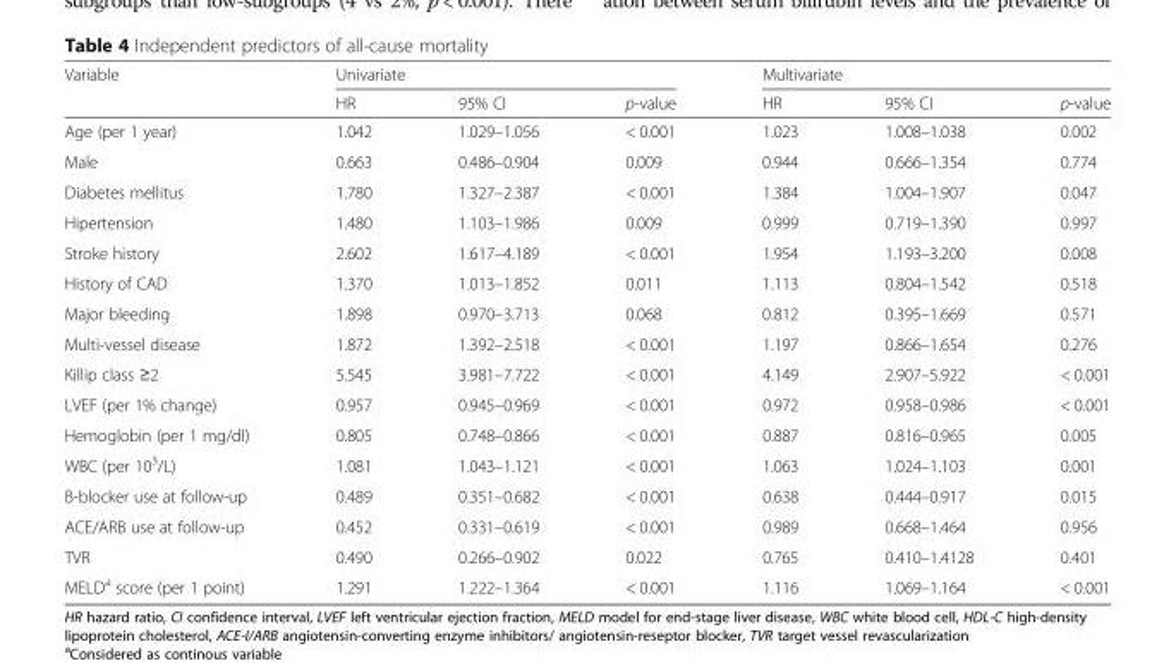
<table><thead><tr><td rowspan="2">Variable</td><td colspan="3">Univariate</td><td colspan="3">Multivariate</td></tr><tr><td>HR</td><td>95% CI</td><td>p-value</td><td>HR</td><td>95% CI</td><td>p-value</td></tr></thead><tbody><tr><td>Age (per 1 year)</td><td>1.042</td><td>1.029–1.056</td><td>&lt; 0.001</td><td>1.023</td><td>1.008–1.038</td><td>0.002</td></tr><tr><td>Male</td><td>0.663</td><td>0.486–0.904</td><td>0.009</td><td>0.944</td><td>0.666–1.354</td><td>0.774</td></tr><tr><td>Diabetes mellitus</td><td>1.780</td><td>1.327–2.387</td><td>&lt; 0.001</td><td>1.384</td><td>1.004–1.907</td><td>0.047</td></tr><tr><td>Hipertension</td><td>1.480</td><td>1.103–1.986</td><td>0.009</td><td>0.999</td><td>0.719–1.390</td><td>0.997</td></tr><tr><td>Stroke history</td><td>2.602</td><td>1.617–4.189</td><td>&lt; 0.001</td><td>1.954</td><td>1.193–3.200</td><td>0.008</td></tr><tr><td>History of CAD</td><td>1.370</td><td>1.013–1.852</td><td>0.011</td><td>1.113</td><td>0.804–1.542</td><td>0.518</td></tr><tr><td>Major bleeding</td><td>1.898</td><td>0.970–3.713</td><td>0.068</td><td>0.812</td><td>0.395–1.669</td><td>0.571</td></tr><tr><td>Multi-vessel disease</td><td>1.872</td><td>1.392–2.518</td><td>&lt; 0.001</td><td>1.197</td><td>0.866–1.654</td><td>0.276</td></tr><tr><td>Killip class ≥2</td><td>5.545</td><td>3.981–7.722</td><td>&lt; 0.001</td><td>4.149</td><td>2.907–5.922</td><td>&lt; 0.001</td></tr><tr><td>LVEF (per 1% change)</td><td>0.957</td><td>0.945–0.969</td><td>&lt; 0.001</td><td>0.972</td><td>0.958–0.986</td><td>&lt; 0.001</td></tr><tr><td>Hemoglobin (per 1 mg/dl)</td><td>0.805</td><td>0.748–0.866</td><td>&lt; 0.001</td><td>0.887</td><td>0.816–0.965</td><td>0.005</td></tr><tr><td>WBC (per 10<sup>3</sup>/L)</td><td>1.081</td><td>1.043–1.121</td><td>&lt; 0.001</td><td>1.063</td><td>1.024–1.103</td><td>0.001</td></tr><tr><td>B-blocker use at follow-up</td><td>0.489</td><td>0.351–0.682</td><td>&lt; 0.001</td><td>0.638</td><td>0.444–0.917</td><td>0.015</td></tr><tr><td>ACE/ARB use at follow-up</td><td>0.452</td><td>0.331–0.619</td><td>&lt; 0.001</td><td>0.989</td><td>0.668–1.464</td><td>0.956</td></tr><tr><td>TVR</td><td>0.490</td><td>0.266–0.902</td><td>0.022</td><td>0.765</td><td>0.410–1.4128</td><td>0.401</td></tr><tr><td>MELD<sup>a</sup> score (per 1 point)</td><td>1.291</td><td>1.222–1.364</td><td>&lt; 0.001</td><td>1.116</td><td>1.069–1.164</td><td>&lt; 0.001</td></tr></tbody></table>